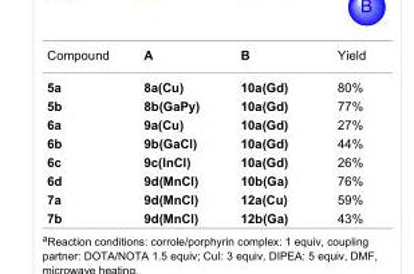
<table><tbody><tr><td>Compound</td><td>A</td><td>B</td><td>Yield</td></tr><tr><td>5a</td><td>8a(Cu)</td><td>10a(Gd)</td><td>80%</td></tr><tr><td>5b</td><td>8b(GaPy)</td><td>10a(Gd)</td><td>77%</td></tr><tr><td>6a</td><td>9a(Cu)</td><td>10a(Gd)</td><td>27%</td></tr><tr><td>6b</td><td>9b(GaCl)</td><td>10a(Gd)</td><td>44%</td></tr><tr><td>6c</td><td>9c(InCl)</td><td>10a(Gd)</td><td>26%</td></tr><tr><td>6d</td><td>9d(MnCl)</td><td>10b(Ga)</td><td>76%</td></tr><tr><td>7a</td><td>9d(MnCl)</td><td>12a(Cu)</td><td>59%</td></tr><tr><td>7b</td><td>9d(MnCl)</td><td>12b(Ga)</td><td>43%</td></tr></tbody></table>